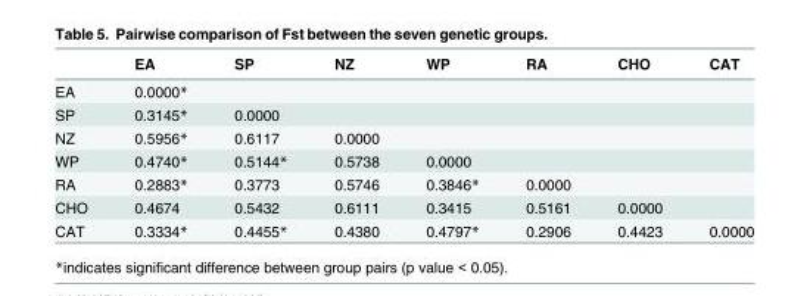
<table><thead><tr><td></td><td>EA</td><td>SP</td><td>NZ</td><td>WP</td><td>RA</td><td>CHO</td><td>CAT</td></tr></thead><tbody><tr><td>EA</td><td>0.0000*</td><td></td><td></td><td></td><td></td><td></td><td></td></tr><tr><td>SP</td><td>0.3145*</td><td>0.0000</td><td></td><td></td><td></td><td></td><td></td></tr><tr><td>NZ</td><td>0.5956*</td><td>0.6117</td><td>0.0000</td><td></td><td></td><td></td><td></td></tr><tr><td>WP</td><td>0.4740*</td><td>0.5144*</td><td>0.5738</td><td>0.0000</td><td></td><td></td><td></td></tr><tr><td>RA</td><td>0.2883*</td><td>0.3773</td><td>0.5746</td><td>0.3846*</td><td>0.0000</td><td></td><td></td></tr><tr><td>CHO</td><td>0.4674</td><td>0.5432</td><td>0.6111</td><td>0.3415</td><td>0.5161</td><td>0.0000</td><td></td></tr><tr><td>CAT</td><td>0.3334*</td><td>0.4455*</td><td>0.4380</td><td>0.4797*</td><td>0.2906</td><td>0.4423</td><td>0.0000</td></tr></tbody></table>